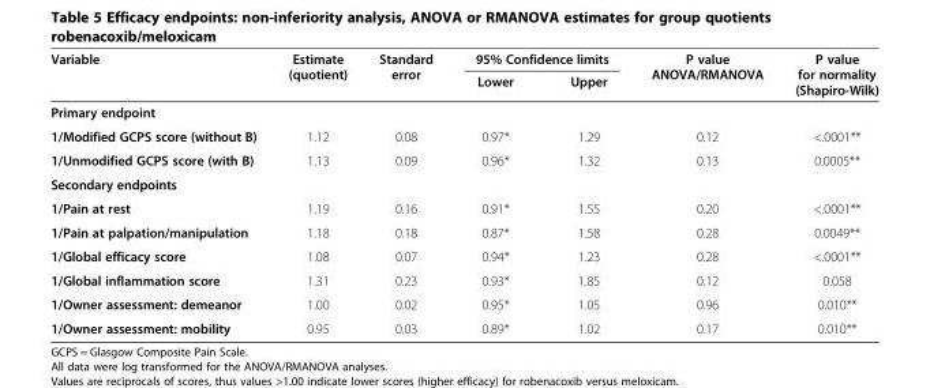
<table><thead><tr><td rowspan="2">Variable</td><td rowspan="2">Estimate (quotient)</td><td rowspan="2">Standard error</td><td colspan="2">95% Confidence limits</td><td rowspan="2">P value ANOVA/RMANOVA</td><td rowspan="2">P value for normality (Shapiro-Wilk)</td></tr><tr><td>Lower</td><td>Upper</td></tr></thead><tbody><tr><td colspan="7">Primary endpoint</td></tr><tr><td>1/Modified GCPS score (without B)</td><td>1.12</td><td>0.08</td><td>0.97*</td><td>1.29</td><td>0.12</td><td>&lt;.0001**</td></tr><tr><td>1/Unmodified GCPS score (with B)</td><td>1.13</td><td>0.09</td><td>0.96*</td><td>1.32</td><td>0.13</td><td>0.0005**</td></tr><tr><td colspan="7">Secondary endpoints</td></tr><tr><td>1/Pain at rest</td><td>1.19</td><td>0.16</td><td>0.91*</td><td>1.55</td><td>0.20</td><td>&lt;.0001**</td></tr><tr><td>1/Pain at palpation/manipulation</td><td>1.18</td><td>0.18</td><td>0.87*</td><td>1.58</td><td>0.28</td><td>0.0049**</td></tr><tr><td>1/Global efficacy score</td><td>1.08</td><td>0.07</td><td>0.94*</td><td>1.23</td><td>0.28</td><td>&lt;.0001**</td></tr><tr><td>1/Global inflammation score</td><td>1.31</td><td>0.23</td><td>0.93*</td><td>1.85</td><td>0.12</td><td>0.058</td></tr><tr><td>1/Owner assessment: demeanor</td><td>1.00</td><td>0.02</td><td>0.95*</td><td>1.05</td><td>0.96</td><td>0.010**</td></tr><tr><td>1/Owner assessment: mobility</td><td>0.95</td><td>0.03</td><td>0.89*</td><td>1.02</td><td>0.17</td><td>0.010**</td></tr></tbody></table>